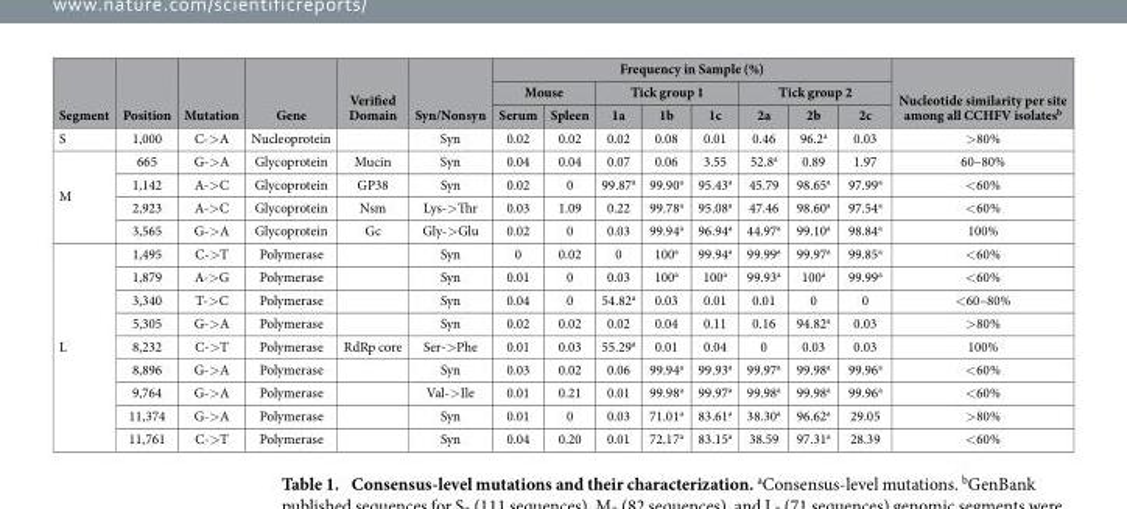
<table><thead><tr><td rowspan="3">Segment</td><td rowspan="3">Position</td><td rowspan="3">Mutation</td><td rowspan="3">Gene</td><td rowspan="3">Verified Domain</td><td rowspan="3">Syn/Nonsyn</td><td colspan="8">Frequency in Sample (%)</td><td rowspan="3">Nucleotide similarity per site among all CCHFV isolates<sup>b</sup></td></tr><tr><td colspan="2">Mouse</td><td colspan="3">Tick group 1</td><td colspan="3">Tick group 2</td></tr><tr><td>Serum</td><td>Spleen</td><td>1a</td><td>1b</td><td>1c</td><td>2a</td><td>2b</td><td>2c</td></tr></thead><tbody><tr><td>S</td><td>1,000</td><td>C-&gt; A</td><td>Nucleoprotein</td><td></td><td>Syn</td><td>0.02</td><td>0.02</td><td>0.02</td><td>0.08</td><td>0.01</td><td>0.46</td><td>96.2<sup>a</sup></td><td>0.03</td><td>&gt; 80%</td></tr><tr><td rowspan="4">M</td><td>665</td><td>G-&gt; A</td><td>Glycoprotein</td><td>Mucin</td><td>Syn</td><td>0.04</td><td>0.04</td><td>0.07</td><td>0.06</td><td>3.55</td><td>52.8<sup>a</sup></td><td>0.89</td><td>1.97</td><td>60–80%</td></tr><tr><td>1,142</td><td>A-&gt; C</td><td>Glycoprotein</td><td>GP38</td><td>Syn</td><td>0.02</td><td>0</td><td>99.87<sup>a</sup></td><td>99.90<sup>a</sup></td><td>95.43<sup>a</sup></td><td>45.79</td><td>98.65<sup>a</sup></td><td>97.99<sup>a</sup></td><td>&lt; 60%</td></tr><tr><td>2,923</td><td>A-&gt; C</td><td>Glycoprotein</td><td>Nsm</td><td>Lys-&gt; Thr</td><td>0.03</td><td>1.09</td><td>0.22</td><td>99.78<sup>a</sup></td><td>95.08<sup>a</sup></td><td>47.46</td><td>98.60<sup>a</sup></td><td>97.54<sup>a</sup></td><td>&lt; 60%</td></tr><tr><td>3,565</td><td>G-&gt; A</td><td>Glycoprotein</td><td>Gc</td><td>Gly-&gt; Glu</td><td>0.02</td><td>0</td><td>0.03</td><td>99.94<sup>a</sup></td><td>96.94<sup>a</sup></td><td>44.97<sup>a</sup></td><td>99.10<sup>a</sup></td><td>98.84<sup>a</sup></td><td>100%</td></tr><tr><td rowspan="9">L</td><td>1,495</td><td>C-&gt; T</td><td>Polymerase</td><td></td><td>Syn</td><td>0</td><td>0.02</td><td>0</td><td>100<sup>a</sup></td><td>99.94<sup>a</sup></td><td>99.99<sup>a</sup></td><td>99.97<sup>a</sup></td><td>99.85<sup>a</sup></td><td>&lt; 60%</td></tr><tr><td>1,879</td><td>A-&gt; G</td><td>Polymerase</td><td></td><td>Syn</td><td>0.01</td><td>0</td><td>0.03</td><td>100<sup>a</sup></td><td>100<sup>a</sup></td><td>99.93<sup>a</sup></td><td>100<sup>a</sup></td><td>99.99<sup>a</sup></td><td>&lt; 60%</td></tr><tr><td>3,340</td><td>T-&gt; C</td><td>Polymerase</td><td></td><td>Syn</td><td>0.04</td><td>0</td><td>54.82<sup>a</sup></td><td>0.03</td><td>0.01</td><td>0.01</td><td>0</td><td>0</td><td>&lt; 60–80%</td></tr><tr><td>5,305</td><td>G-&gt; A</td><td>Polymerase</td><td></td><td>Syn</td><td>0.02</td><td>0.02</td><td>0.02</td><td>0.04</td><td>0.11</td><td>0.16</td><td>94.82<sup>a</sup></td><td>0.03</td><td>&gt; 80%</td></tr><tr><td>8,232</td><td>C-&gt; T</td><td>Polymerase</td><td>RdRp core</td><td>Ser-&gt; Phe</td><td>0.01</td><td>0.03</td><td>55.29<sup>a</sup></td><td>0.01</td><td>0.04</td><td>0</td><td>0.03</td><td>0.03</td><td>100%</td></tr><tr><td>8,896</td><td>G-&gt; A</td><td>Polymerase</td><td></td><td>Syn</td><td>0.03</td><td>0.02</td><td>0.06</td><td>99.94<sup>a</sup></td><td>99.93<sup>a</sup></td><td>99.97<sup>a</sup></td><td>99.98<sup>a</sup></td><td>99.96<sup>a</sup></td><td>&lt; 60%</td></tr><tr><td>9,764</td><td>G-&gt; A</td><td>Polymerase</td><td></td><td>Val-&gt; Ile</td><td>0.01</td><td>0.21</td><td>0.01</td><td>99.98<sup>a</sup></td><td>99.97<sup>a</sup></td><td>99.98<sup>a</sup></td><td>99.98<sup>a</sup></td><td>99.96<sup>a</sup></td><td>&lt; 60%</td></tr><tr><td>11,374</td><td>G-&gt; A</td><td>Polymerase</td><td></td><td>Syn</td><td>0.01</td><td>0</td><td>0.03</td><td>71.01<sup>a</sup></td><td>83.61<sup>a</sup></td><td>38.30<sup>a</sup></td><td>96.62<sup>a</sup></td><td>29.05</td><td>&gt; 80%</td></tr><tr><td>11,761</td><td>C-&gt; T</td><td>Polymerase</td><td></td><td>Syn</td><td>0.04</td><td>0.20</td><td>0.01</td><td>72.17<sup>a</sup></td><td>83.15<sup>a</sup></td><td>38.59</td><td>97.31<sup>a</sup></td><td>28.39</td><td>&lt; 60%</td></tr></tbody></table>